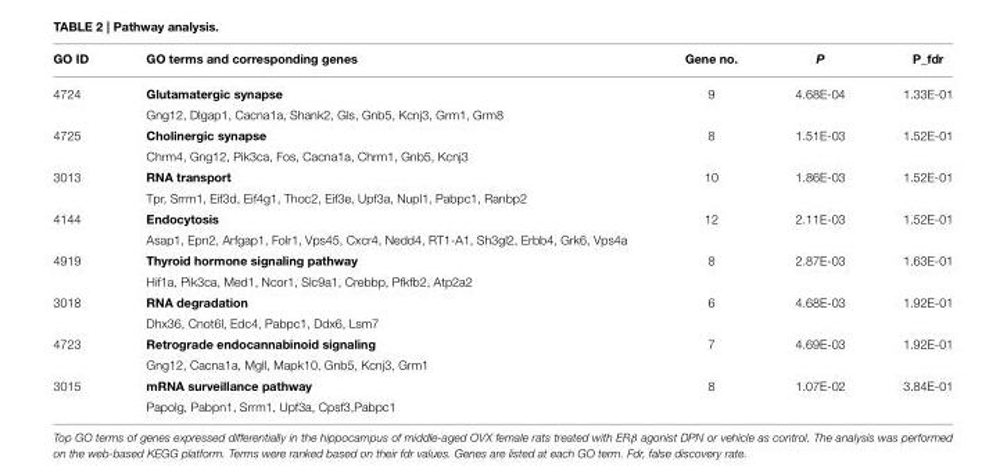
<table><thead><tr><td>GO ID</td><td>GO terms and corresponding genes</td><td>Gene no.</td><td>P</td><td>P_fdr</td></tr></thead><tbody><tr><td rowspan="2">4724</td><td>Glutamatergic synapse</td><td>9</td><td>4.68E-04</td><td>1.33E-01</td></tr><tr><td>Gng12, Dlgap1, Cacna1a, Shank2, Gls, Gnb5, Kcnj3, Grm1, Grm8</td><td></td><td></td><td></td></tr><tr><td rowspan="2">4725</td><td>Cholinergic synapse</td><td>8</td><td>1.51E-03</td><td>1.52E-01</td></tr><tr><td>Chrm4, Gng12, Pik3ca, Fos, Cacna1a, Chrm1, Gnb5, Kcnj3</td><td></td><td></td><td></td></tr><tr><td rowspan="2">3013</td><td>RNA transport</td><td>10</td><td>1.86E-03</td><td>1.52E-01</td></tr><tr><td>Tpr, Srrm1, Eif3d, Eif4g1, Thoc2, Eif3e, Upf3a, Nupl1, Pabpc1, Ranbp2</td><td></td><td></td><td></td></tr><tr><td rowspan="2">4144</td><td>Endocytosis</td><td>12</td><td>2.11E-03</td><td>1.52E-01</td></tr><tr><td>Asap1, Epn2, Arfgap1, Folr1, Vps45, Cxcr4, Nedd4, RT1-A1, Sh3gl2, Erbb4, Grk6, Vps4a</td><td></td><td></td><td></td></tr><tr><td rowspan="2">4919</td><td>Thyroid hormone signaling pathway</td><td>8</td><td>2.87E-03</td><td>1.63E-01</td></tr><tr><td>Hif1a, Pik3ca, Med1, Ncor1, Slc9a1, Crebbp, Pfkfb2, Atp2a2</td><td></td><td></td><td></td></tr><tr><td rowspan="2">3018</td><td>RNA degradation</td><td>6</td><td>4.68E-03</td><td>1.92E-01</td></tr><tr><td>Dhx36, Cnot6l, Edc4, Pabpc1, Ddx6, Lsm7</td><td></td><td></td><td></td></tr><tr><td rowspan="2">4723</td><td>Retrograde endocannabinoid signaling</td><td>7</td><td>4.69E-03</td><td>1.92E-01</td></tr><tr><td>Gng12, Cacna1a, Mgll, Mapk10, Gnb5, Kcnj3, Grm1</td><td></td><td></td><td></td></tr><tr><td rowspan="2">3015</td><td>mRNA surveillance pathway</td><td>8</td><td>1.07E-02</td><td>3.84E-01</td></tr><tr><td>Papolg, Pabpn1, Srrm1, Upf3a, Cpsf3,Pabpc1</td><td></td><td></td><td></td></tr></tbody></table>